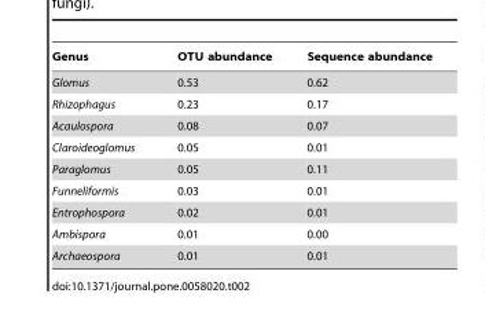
<table><thead><tr><td>Genus</td><td>OTU abundance</td><td>Sequence abundance</td></tr></thead><tbody><tr><td>Glomus</td><td>0.53</td><td>0.62</td></tr><tr><td>Rhizophagus</td><td>0.23</td><td>0.17</td></tr><tr><td>Acaulospora</td><td>0.08</td><td>0.07</td></tr><tr><td>Claroideoglomus</td><td>0.05</td><td>0.01</td></tr><tr><td>Paraglomus</td><td>0.05</td><td>0.11</td></tr><tr><td>Funneliformis</td><td>0.03</td><td>0.01</td></tr><tr><td>Entrophospora</td><td>0.02</td><td>0.01</td></tr><tr><td>Ambispora</td><td>0.01</td><td>0.00</td></tr><tr><td>Archaeospora</td><td>0.01</td><td>0.01</td></tr></tbody></table>